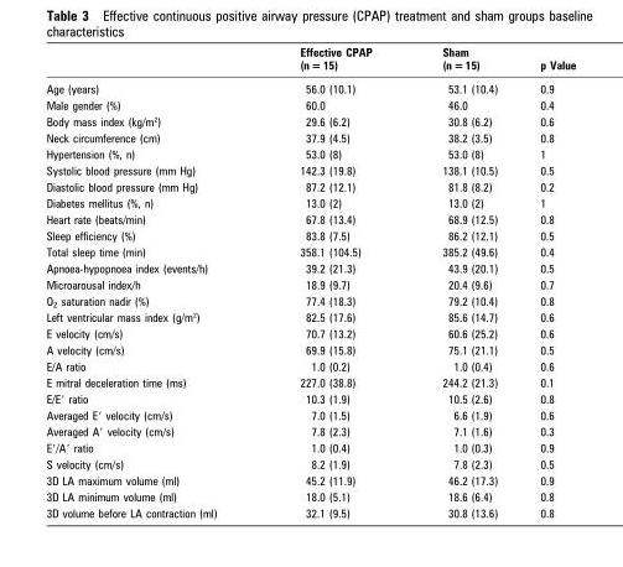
<table><thead><tr><td></td><td>Effective CPAP (n = 15)</td><td>Sham (n = 15)</td><td>p Value</td></tr></thead><tbody><tr><td>Age (years)</td><td>56.0 (10.1)</td><td>53.1 (10.4)</td><td>0.9</td></tr><tr><td>Male gender (%)</td><td>60.0</td><td>46.0</td><td>0.4</td></tr><tr><td>Body mass index (kg/m<sup>2</sup>)</td><td>29.6 (6.2)</td><td>30.8 (6.2)</td><td>0.6</td></tr><tr><td>Neck circumference (cm)</td><td>37.9 (4.5)</td><td>38.2 (3.5)</td><td>0.8</td></tr><tr><td>Hypertension (%, n)</td><td>53.0 (8)</td><td>53.0 (8)</td><td>1</td></tr><tr><td>Systolic blood pressure (mm Hg)</td><td>142.3 (19.8)</td><td>138.1 (10.5)</td><td>0.5</td></tr><tr><td>Diastolic blood pressure (mm Hg)</td><td>87.2 (12.1)</td><td>81.8 (8.2)</td><td>0.2</td></tr><tr><td>Diabetes mellitus (%, n)</td><td>13.0 (2)</td><td>13.0 (2)</td><td>1</td></tr><tr><td>Heart rate (beats/min)</td><td>67.8 (13.4)</td><td>68.9 (12.5)</td><td>0.8</td></tr><tr><td>Sleep efficiency (%)</td><td>83.8 (7.5)</td><td>86.2 (12.1)</td><td>0.5</td></tr><tr><td>Total sleep time (min)</td><td>358.1 (104.5)</td><td>385.2 (49.6)</td><td>0.4</td></tr><tr><td>Apnoea-hypopnoea index (events/h)</td><td>39.2 (21.3)</td><td>43.9 (20.1)</td><td>0.5</td></tr><tr><td>Microarousal index/h</td><td>18.9 (9.7)</td><td>20.4 (9.6)</td><td>0.7</td></tr><tr><td>O<sub>2</sub> saturation nadir (%)</td><td>77.4 (18.3)</td><td>79.2 (10.4)</td><td>0.8</td></tr><tr><td>Left ventricular mass index (g/m<sup>2</sup>)</td><td>82.5 (17.6)</td><td>85.6 (14.7)</td><td>0.6</td></tr><tr><td>E velocity (cm/s)</td><td>70.7 (13.2)</td><td>60.6 (25.2)</td><td>0.6</td></tr><tr><td>A velocity (cm/s)</td><td>69.9 (15.8)</td><td>75.1 (21.1)</td><td>0.5</td></tr><tr><td>E/A ratio</td><td>1.0 (0.2)</td><td>1.0 (0.4)</td><td>0.6</td></tr><tr><td>E mitral deceleration time (ms)</td><td>227.0 (38.8)</td><td>244.2 (21.3)</td><td>0.1</td></tr><tr><td>E/E′ ratio</td><td>10.3 (1.9)</td><td>10.5 (2.6)</td><td>0.8</td></tr><tr><td>Averaged E′ velocity (cm/s)</td><td>7.0 (1.5)</td><td>6.6 (1.9)</td><td>0.6</td></tr><tr><td>Averaged A′ velocity (cm/s)</td><td>7.8 (2.3)</td><td>7.1 (1.6)</td><td>0.3</td></tr><tr><td>E′/A′ ratio</td><td>1.0 (0.4)</td><td>1.0 (0.3)</td><td>0.9</td></tr><tr><td>S velocity (cm/s)</td><td>8.2 (1.9)</td><td>7.8 (2.3)</td><td>0.5</td></tr><tr><td>3D LA maximum volume (ml)</td><td>45.2 (11.9)</td><td>46.2 (17.3)</td><td>0.9</td></tr><tr><td>3D LA minimum volume (ml)</td><td>18.0 (5.1)</td><td>18.6 (6.4)</td><td>0.8</td></tr><tr><td>3D volume before LA contraction (ml)</td><td>32.1 (9.5)</td><td>30.8 (13.6)</td><td>0.8</td></tr></tbody></table>